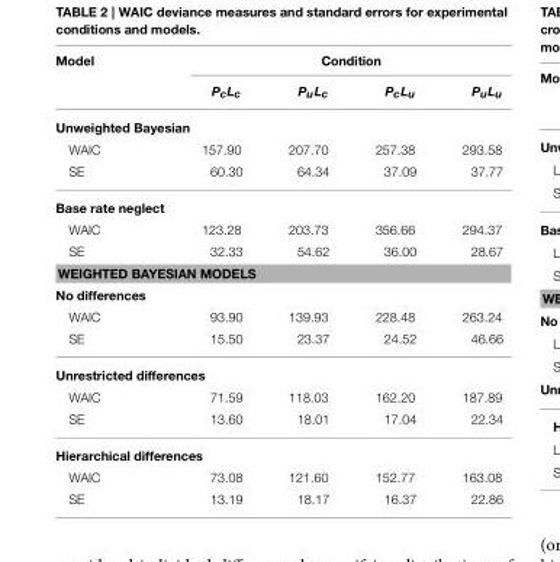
<table><thead><tr><td rowspan="2">Model</td><td colspan="4">Condition</td></tr><tr><td>P<sub>c</sub>L<sub>c</sub></td><td>P<sub>u</sub>L<sub>c</sub></td><td>P<sub>c</sub>L<sub>u</sub></td><td>P<sub>u</sub>L<sub>u</sub></td></tr></thead><tbody><tr><td colspan="5">Unweighted Bayesian</td></tr><tr><td>WAIC</td><td>157.90</td><td>207.70</td><td>257.38</td><td>293.58</td></tr><tr><td>SE</td><td>60.30</td><td>64.34</td><td>37.09</td><td>37.77</td></tr><tr><td colspan="5">Base rate neglect</td></tr><tr><td>WAIC</td><td>123.28</td><td>203.73</td><td>356.66</td><td>294.37</td></tr><tr><td>SE</td><td>32.33</td><td>54.62</td><td>36.00</td><td>28.67</td></tr><tr><td colspan="5">WEIGHTED BAYESIAN MODELS</td></tr><tr><td colspan="5">No differences</td></tr><tr><td>WAIC</td><td>93.90</td><td>139.93</td><td>228.48</td><td>263.24</td></tr><tr><td>SE</td><td>15.50</td><td>23.37</td><td>24.52</td><td>46.66</td></tr><tr><td colspan="5">Unrestricted differences</td></tr><tr><td>WAIC</td><td>71.59</td><td>118.03</td><td>162.20</td><td>187.89</td></tr><tr><td>SE</td><td>13.60</td><td>18.01</td><td>17.04</td><td>22.34</td></tr><tr><td colspan="5">Hierarchical differences</td></tr><tr><td>WAIC</td><td>73.08</td><td>121.60</td><td>152.77</td><td>163.08</td></tr><tr><td>SE</td><td>13.19</td><td>18.17</td><td>16.37</td><td>22.86</td></tr></tbody></table>